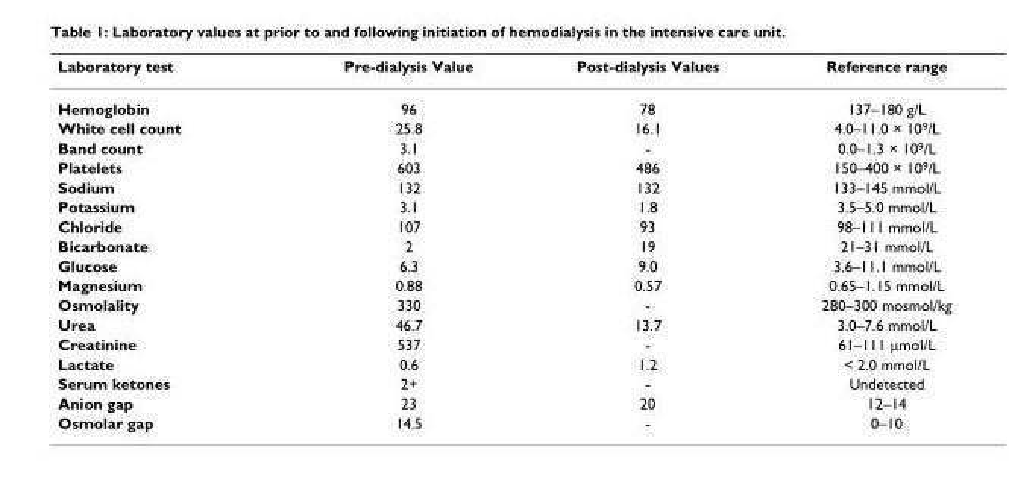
<table><thead><tr><td>Laboratory test</td><td>Pre-dialysis Value</td><td>Post-dialysis Values</td><td>Reference range</td></tr></thead><tbody><tr><td>Hemoglobin</td><td>96</td><td>78</td><td>137–180 g/L</td></tr><tr><td>White cell count</td><td>25.8</td><td>16.1</td><td>4.0–11.0 × 10<sup>9</sup>/L</td></tr><tr><td>Band count</td><td>3.1</td><td>-</td><td>0.0–1.3 × 10<sup>9</sup>/L</td></tr><tr><td>Platelets</td><td>603</td><td>486</td><td>150–400 × 10<sup>9</sup>/L</td></tr><tr><td>Sodium</td><td>132</td><td>132</td><td>133–145 mmol/L</td></tr><tr><td>Potassium</td><td>3.1</td><td>1.8</td><td>3.5–5.0 mmol/L</td></tr><tr><td>Chloride</td><td>107</td><td>93</td><td>98–111 mmol/L</td></tr><tr><td>Bicarbonate</td><td>2</td><td>19</td><td>21–31 mmol/L</td></tr><tr><td>Glucose</td><td>6.3</td><td>9.0</td><td>3.6–11.1 mmol/L</td></tr><tr><td>Magnesium</td><td>0.88</td><td>0.57</td><td>0.65–1.15 mmol/L</td></tr><tr><td>Osmolality</td><td>330</td><td>-</td><td>280–300 mosmol/kg</td></tr><tr><td>Urea</td><td>46.7</td><td>13.7</td><td>3.0–7.6 mmol/L</td></tr><tr><td>Creatinine</td><td>537</td><td>-</td><td>61–111 µmol/L</td></tr><tr><td>Lactate</td><td>0.6</td><td>1.2</td><td>&lt; 2.0 mmol/L</td></tr><tr><td>Serum ketones</td><td>2+</td><td>-</td><td>Undetected</td></tr><tr><td>Anion gap</td><td>23</td><td>20</td><td>12–14</td></tr><tr><td>Osmolar gap</td><td>14.5</td><td>-</td><td>0–10</td></tr></tbody></table>